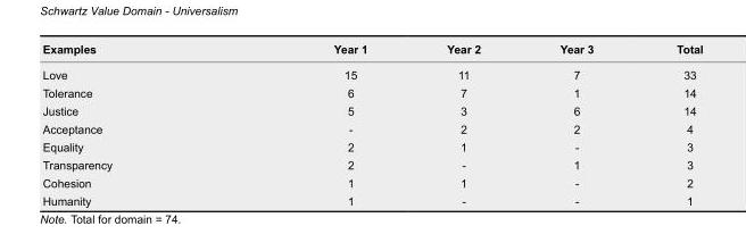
<table><thead><tr><td>Examples</td><td>Year 1</td><td>Year 2</td><td>Year 3</td><td>Total</td></tr></thead><tbody><tr><td>Love</td><td>15</td><td>11</td><td>7</td><td>33</td></tr><tr><td>Tolerance</td><td>6</td><td>7</td><td>1</td><td>14</td></tr><tr><td>Justice</td><td>5</td><td>3</td><td>6</td><td>14</td></tr><tr><td>Acceptance</td><td>-</td><td>2</td><td>2</td><td>4</td></tr><tr><td>Equality</td><td>2</td><td>1</td><td>-</td><td>3</td></tr><tr><td>Transparency</td><td>2</td><td>-</td><td>1</td><td>3</td></tr><tr><td>Cohesion</td><td>1</td><td>1</td><td>-</td><td>2</td></tr><tr><td>Humanity</td><td>1</td><td>-</td><td>-</td><td>1</td></tr></tbody></table>